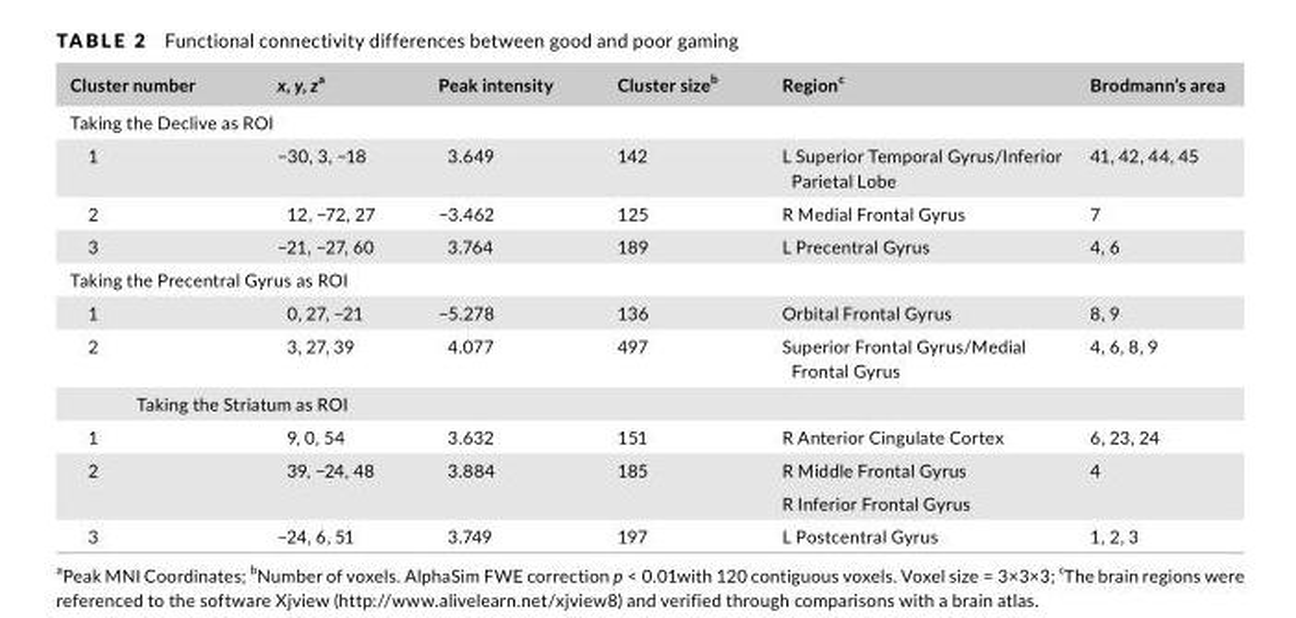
<table><thead><tr><td>Cluster number</td><td>x, y, za</td><td>Peak intensity</td><td>Cluster size<sup>b</sup></td><td>Region<sup>c</sup></td><td>Brodmann’s area</td></tr></thead><tbody><tr><td colspan="6">Taking the Declive as ROI</td></tr><tr><td>1</td><td>−30, 3, −18</td><td>3.649</td><td>142</td><td>L Superior Temporal Gyrus/Inferior Parietal Lobe</td><td>41, 42, 44, 45</td></tr><tr><td>2</td><td>12, −72, 27</td><td>−3.462</td><td>125</td><td>R Medial Frontal Gyrus</td><td>7</td></tr><tr><td>3</td><td>−21, −27, 60</td><td>3.764</td><td>189</td><td>L Precentral Gyrus</td><td>4, 6</td></tr><tr><td colspan="6">Taking the Precentral Gyrus as ROI</td></tr><tr><td>1</td><td>0, 27, −21</td><td>−5.278</td><td>136</td><td>Orbital Frontal Gyrus</td><td>8, 9</td></tr><tr><td>2</td><td>3, 27, 39</td><td>4.077</td><td>497</td><td>Superior Frontal Gyrus/Medial Frontal Gyrus</td><td>4, 6, 8, 9</td></tr><tr><td colspan="6">Taking the Striatum as ROI</td></tr><tr><td>1</td><td>9, 0, 54</td><td>3.632</td><td>151</td><td>R Anterior Cingulate Cortex</td><td>6, 23, 24</td></tr><tr><td rowspan="2">2</td><td rowspan="2">39, −24, 48</td><td rowspan="2">3.884</td><td rowspan="2">185</td><td>R Middle Frontal Gyrus</td><td rowspan="2">4</td></tr><tr><td>R Inferior Frontal Gyrus</td></tr><tr><td>3</td><td>−24, 6, 51</td><td>3.749</td><td>197</td><td>L Postcentral Gyrus</td><td>1, 2, 3</td></tr></tbody></table>